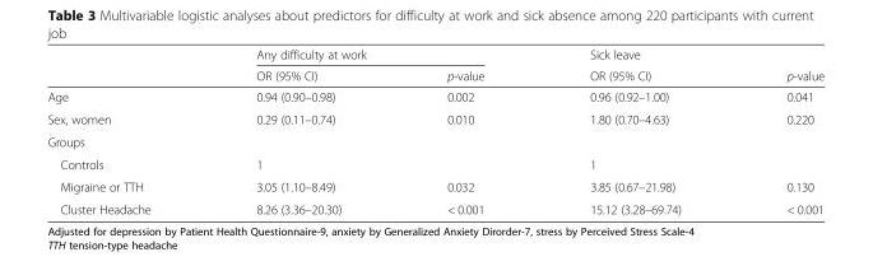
<table><thead><tr><td rowspan="2"></td><td colspan="2">Any difficulty at work</td><td rowspan="2">Sick leave OR (95% CI)</td><td rowspan="2">p-value</td></tr><tr><td>OR (95% CI)</td><td>p-value</td></tr></thead><tbody><tr><td>Age</td><td>0.94 (0.90–0.98)</td><td>0.002</td><td>0.96 (0.92–1.00)</td><td>0.041</td></tr><tr><td>Sex, women</td><td>0.29 (0.11–0.74)</td><td>0.010</td><td>1.80 (0.70–4.63)</td><td>0.220</td></tr><tr><td colspan="5">Groups</td></tr><tr><td>Controls</td><td>1</td><td></td><td>1</td><td></td></tr><tr><td>Migraine or TTH</td><td>3.05 (1.10–8.49)</td><td>0.032</td><td>3.85 (0.67–21.98)</td><td>0.130</td></tr><tr><td>Cluster Headache</td><td>8.26 (3.36–20.30)</td><td>&lt; 0.001</td><td>15.12 (3.28–69.74)</td><td>&lt; 0.001</td></tr></tbody></table>